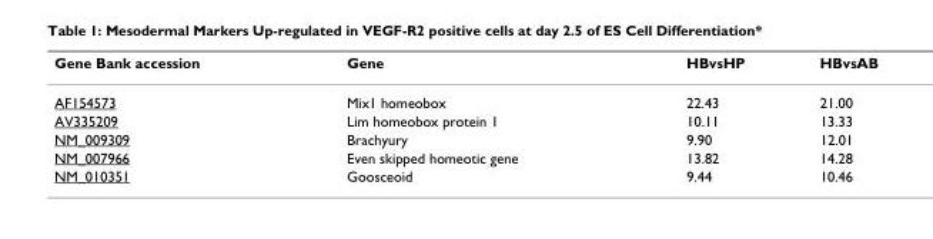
<table><thead><tr><td>Gene Bank accession</td><td>Gene</td><td>HBvsHP</td><td>HBvsAB</td></tr></thead><tbody><tr><td>AF154573</td><td>Mix1 homeobox</td><td>22.43</td><td>21.00</td></tr><tr><td>AV335209</td><td>Lim homeobox protein 1</td><td>10.11</td><td>13.33</td></tr><tr><td>NM_009309</td><td>Brachyury</td><td>9.90</td><td>12.01</td></tr><tr><td>NM_007966</td><td>Even skipped homeotic gene</td><td>13.82</td><td>14.28</td></tr><tr><td>NM_010351</td><td>Goosceoid</td><td>9.44</td><td>10.46</td></tr></tbody></table>